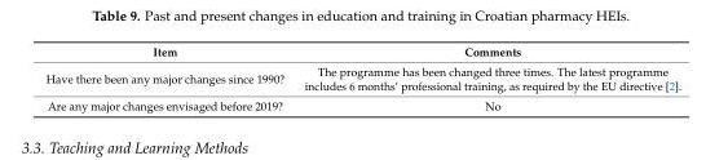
<table><thead><tr><td>Item</td><td>Comments</td></tr></thead><tbody><tr><td>Have there been any major changes since 1990?</td><td>The programme has been changed three times. The latest programme includes 6 months’ professional training, as required by the EU directive [2].</td></tr><tr><td>Are any major changes envisaged before 2019?</td><td>No</td></tr></tbody></table>